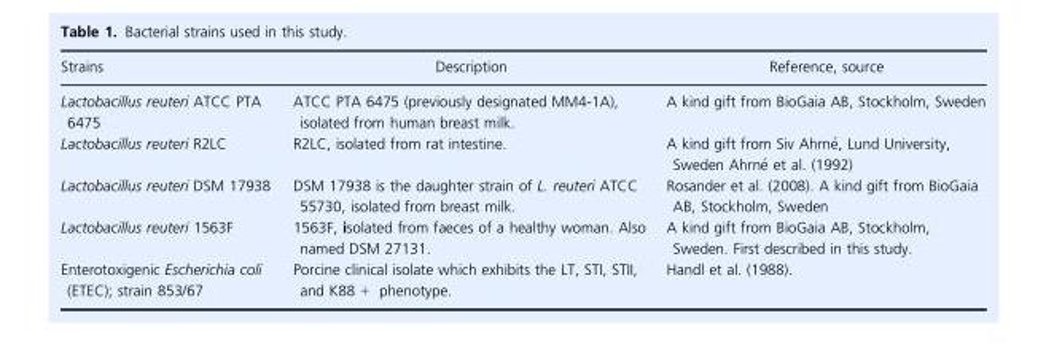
<table><thead><tr><td>Strains</td><td>Description</td><td>Reference, source</td></tr></thead><tbody><tr><td>Lactobacillus reuteri ATCC PTA 6475</td><td>ATCC PTA 6475 (previously designated MM4-1A), isolated from human breast milk.</td><td>A kind gift from BioGaia AB, Stockholm, Sweden</td></tr><tr><td>Lactobacillus reuteri R2LC</td><td>R2LC, isolated from rat intestine.</td><td>A kind gift from Siv Ahrn�e, Lund University, Sweden Ahrn�e et al. (1992)</td></tr><tr><td>Lactobacillus reuteri DSM 17938</td><td>DSM 17938 is the daughter strain of L. reuteri ATCC 55730, isolated from breast milk.</td><td>Rosander et al. (2008). A kind gift from BioGaia AB, Stockholm, Sweden</td></tr><tr><td>Lactobacillus reuteri 1563F</td><td>1563F, isolated from faeces of a healthy woman. Also named DSM 27131.</td><td>A kind gift from BioGaia AB, Stockholm, Sweden. First described in this study.</td></tr><tr><td>Enterotoxigenic Escherichia coli (ETEC); strain 853/67</td><td>Porcine clinical isolate which exhibits the LT, STI, STII, and K88 + phenotype.</td><td>Handl et al. (1988).</td></tr></tbody></table>